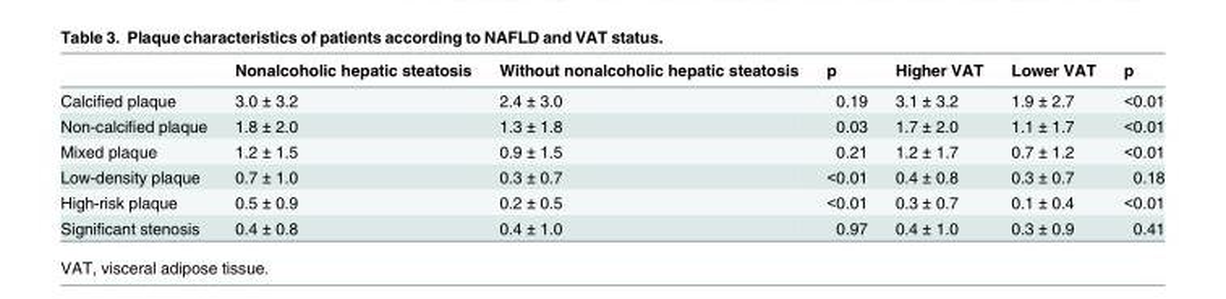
<table><thead><tr><td></td><td>Nonalcoholic hepatic steatosis</td><td>Without nonalcoholic hepatic steatosis</td><td>p</td><td>Higher VAT</td><td>Lower VAT</td><td>p</td></tr></thead><tbody><tr><td>Calcified plaque</td><td>3.0 ± 3.2</td><td>2.4 ± 3.0</td><td>0.19</td><td>3.1 ± 3.2</td><td>1.9 ± 2.7</td><td>&lt;0.01</td></tr><tr><td>Non-calcified plaque</td><td>1.8 ± 2.0</td><td>1.3 ± 1.8</td><td>0.03</td><td>1.7 ± 2.0</td><td>1.1 ± 1.7</td><td>&lt;0.01</td></tr><tr><td>Mixed plaque</td><td>1.2 ± 1.5</td><td>0.9 ± 1.5</td><td>0.21</td><td>1.2 ± 1.7</td><td>0.7 ± 1.2</td><td>&lt;0.01</td></tr><tr><td>Low-density plaque</td><td>0.7 ± 1.0</td><td>0.3 ± 0.7</td><td>&lt;0.01</td><td>0.4 ± 0.8</td><td>0.3 ± 0.7</td><td>0.18</td></tr><tr><td>High-risk plaque</td><td>0.5 ± 0.9</td><td>0.2 ± 0.5</td><td>&lt;0.01</td><td>0.3 ± 0.7</td><td>0.1 ± 0.4</td><td>&lt;0.01</td></tr><tr><td>Significant stenosis</td><td>0.4 ± 0.8</td><td>0.4 ± 1.0</td><td>0.97</td><td>0.4 ± 1.0</td><td>0.3 ± 0.9</td><td>0.41</td></tr></tbody></table>